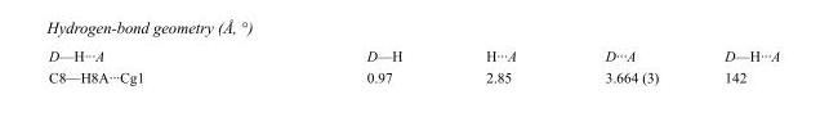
<table><tbody><tr><td>D—H···A</td><td>D—H</td><td>H···A</td><td>D···A</td><td>D—H···A</td></tr><tr><td>C8—H8A···Cg1</td><td>0.97</td><td>2.85</td><td>3.664 (3)</td><td>142</td></tr></tbody></table>